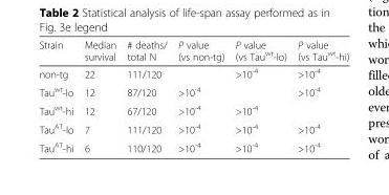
<table><thead><tr><td>Strain</td><td>Median survival</td><td># deaths/ total N</td><td>P value (vs non-tg)</td><td>P value (vs Tau<sup>wt</sup>-lo)</td><td>P value (vs Tau<sup>wt</sup>-hi)</td></tr></thead><tbody><tr><td>non-tg</td><td>22</td><td>111/120</td><td></td><td>&gt;10<sup>-4</sup></td><td>&gt;10<sup>-4</sup></td></tr><tr><td>Tau<sup>wt</sup>-lo</td><td>12</td><td>87/120</td><td>&gt;10<sup>-4</sup></td><td></td><td>&gt;10<sup>-4</sup></td></tr><tr><td>Tau<sup>wt</sup>-hi</td><td>12</td><td>67/120</td><td>&gt;10<sup>-4</sup></td><td>&gt;10<sup>-4</sup></td><td></td></tr><tr><td>Tau<sup>AT</sup>-lo</td><td>7</td><td>111/120</td><td>&gt;10<sup>-4</sup></td><td>&gt;10<sup>-4</sup></td><td>&gt;10<sup>-4</sup></td></tr><tr><td>Tau<sup>AT</sup>-hi</td><td>6</td><td>110/120</td><td>&gt;10<sup>-4</sup></td><td>&gt;10<sup>-4</sup></td><td>&gt;10<sup>-4</sup></td></tr></tbody></table>